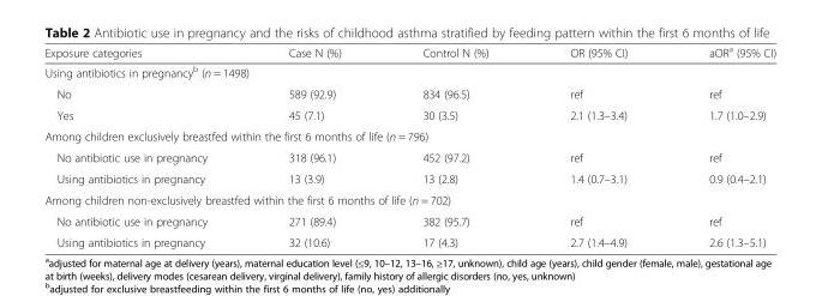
<table><thead><tr><td>Exposure categories</td><td>Case N (%)</td><td>Control N (%)</td><td>OR (95% CI)</td><td>aOR<sup>a</sup> (95% CI)</td></tr></thead><tbody><tr><td colspan="5">Using antibiotics in pregnancy<sup>b</sup> (n = 1498)</td></tr><tr><td>No</td><td>589 (92.9)</td><td>834 (96.5)</td><td>ref</td><td>ref</td></tr><tr><td>Yes</td><td>45 (7.1)</td><td>30 (3.5)</td><td>2.1 (1.3–3.4)</td><td>1.7 (1.0–2.9)</td></tr><tr><td colspan="5">Among children exclusively breastfed within the first 6 months of life (n = 796)</td></tr><tr><td>No antibiotic use in pregnancy</td><td>318 (96.1)</td><td>452 (97.2)</td><td>ref</td><td>ref</td></tr><tr><td>Using antibiotics in pregnancy</td><td>13 (3.9)</td><td>13 (2.8)</td><td>1.4 (0.7–3.1)</td><td>0.9 (0.4–2.1)</td></tr><tr><td colspan="5">Among children non-exclusively breastfed within the first 6 months of life (n = 702)</td></tr><tr><td>No antibiotic use in pregnancy</td><td>271 (89.4)</td><td>382 (95.7)</td><td>ref</td><td>ref</td></tr><tr><td>Using antibiotics in pregnancy</td><td>32 (10.6)</td><td>17 (4.3)</td><td>2.7 (1.4–4.9)</td><td>2.6 (1.3–5.1)</td></tr></tbody></table>